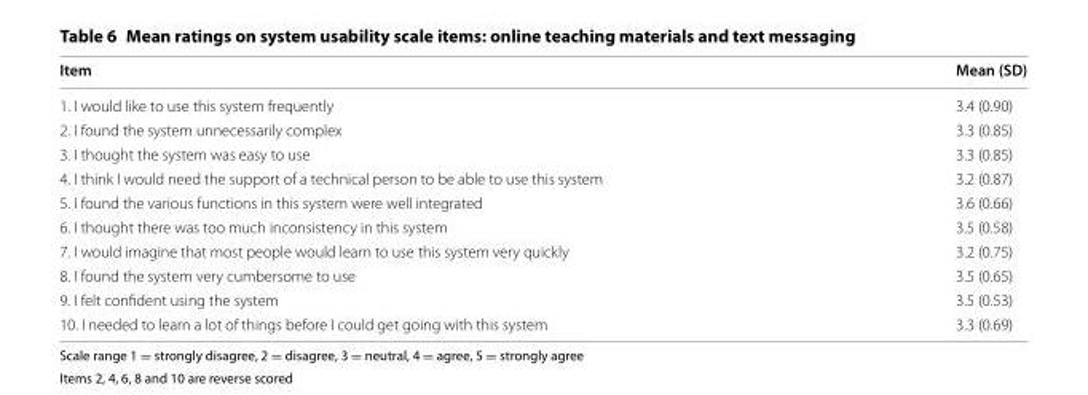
<table><thead><tr><td>Item</td><td>Mean (SD)</td></tr></thead><tbody><tr><td>1. I would like to use this system frequently</td><td>3.4 (0.90)</td></tr><tr><td>2. I found the system unnecessarily complex</td><td>3.3 (0.85)</td></tr><tr><td>3. I thought the system was easy to use</td><td>3.3 (0.85)</td></tr><tr><td>4. I think I would need the support of a technical person to be able to use this system</td><td>3.2 (0.87)</td></tr><tr><td>5. I found the various functions in this system were well integrated</td><td>3.6 (0.66)</td></tr><tr><td>6. I thought there was too much inconsistency in this system</td><td>3.5 (0.58)</td></tr><tr><td>7. I would imagine that most people would learn to use this system very quickly</td><td>3.2 (0.75)</td></tr><tr><td>8. I found the system very cumbersome to use</td><td>3.5 (0.65)</td></tr><tr><td>9. I felt confident using the system</td><td>3.5 (0.53)</td></tr><tr><td>10. I needed to learn a lot of things before I could get going with this system</td><td>3.3 (0.69)</td></tr></tbody></table>